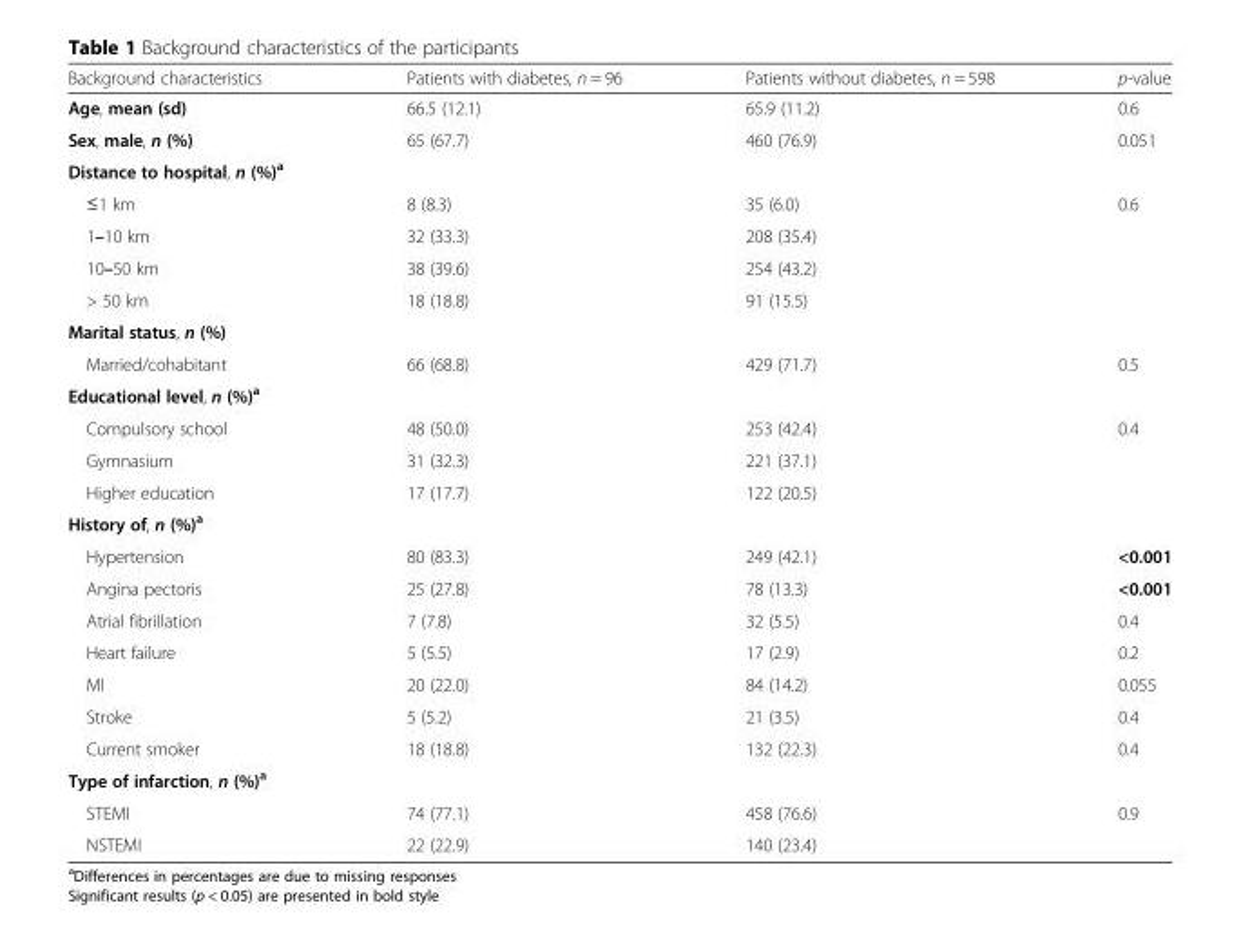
<table><thead><tr><td>Background characteristics</td><td>Patients with diabetes, n = 96</td><td>Patients without diabetes, n = 598</td><td>p-value</td></tr></thead><tbody><tr><td>Age, mean (sd)</td><td>66.5 (12.1)</td><td>65.9 (11.2)</td><td>0.6</td></tr><tr><td>Sex, male, n (%)</td><td>65 (67.7)</td><td>460 (76.9)</td><td>0.051</td></tr><tr><td colspan="4">Distance to hospital, n (%)<sup>a</sup></td></tr><tr><td>≤1 km</td><td>8 (8.3)</td><td>35 (6.0)</td><td>0.6</td></tr><tr><td>1–10 km</td><td>32 (33.3)</td><td>208 (35.4)</td><td></td></tr><tr><td>10–50 km</td><td>38 (39.6)</td><td>254 (43.2)</td><td></td></tr><tr><td>&gt; 50 km</td><td>18 (18.8)</td><td>91 (15.5)</td><td></td></tr><tr><td colspan="4">Marital status, n (%)</td></tr><tr><td>Married/cohabitant</td><td>66 (68.8)</td><td>429 (71.7)</td><td>0.5</td></tr><tr><td colspan="4">Educational level, n (%)<sup>a</sup></td></tr><tr><td>Compulsory school</td><td>48 (50.0)</td><td>253 (42.4)</td><td>0.4</td></tr><tr><td>Gymnasium</td><td>31 (32.3)</td><td>221 (37.1)</td><td></td></tr><tr><td>Higher education</td><td>17 (17.7)</td><td>122 (20.5)</td><td></td></tr><tr><td colspan="4">History of, n (%)<sup>a</sup></td></tr><tr><td>Hypertension</td><td>80 (83.3)</td><td>249 (42.1)</td><td>&lt;0.001</td></tr><tr><td>Angina pectoris</td><td>25 (27.8)</td><td>78 (13.3)</td><td>&lt;0.001</td></tr><tr><td>Atrial fibrillation</td><td>7 (7.8)</td><td>32 (5.5)</td><td>0.4</td></tr><tr><td>Heart failure</td><td>5 (5.5)</td><td>17 (2.9)</td><td>0.2</td></tr><tr><td>MI</td><td>20 (22.0)</td><td>84 (14.2)</td><td>0.055</td></tr><tr><td>Stroke</td><td>5 (5.2)</td><td>21 (3.5)</td><td>0.4</td></tr><tr><td>Current smoker</td><td>18 (18.8)</td><td>132 (22.3)</td><td>0.4</td></tr><tr><td colspan="4">Type of infarction, n (%)<sup>a</sup></td></tr><tr><td>STEMI</td><td>74 (77.1)</td><td>458 (76.6)</td><td>0.9</td></tr><tr><td>NSTEMI</td><td>22 (22.9)</td><td>140 (23.4)</td><td></td></tr></tbody></table>